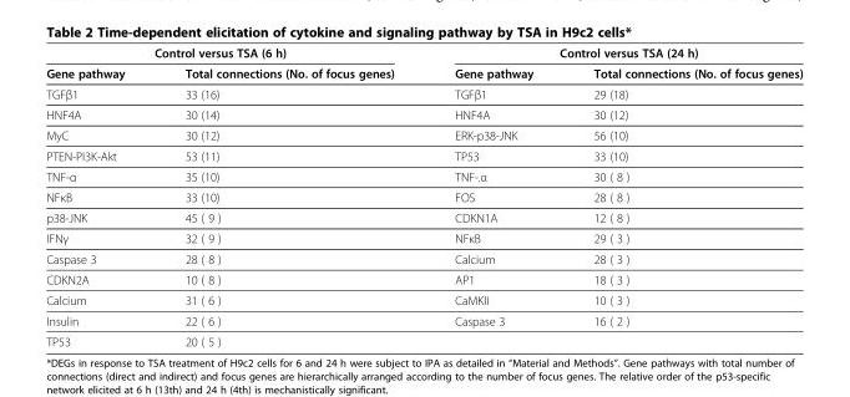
<table><thead><tr><td colspan="2">Control versus TSA (6 h)</td><td colspan="2">Control versus TSA (24 h)</td></tr><tr><td>Gene pathway</td><td>Total connections (No. of focus genes)</td><td>Gene pathway</td><td>Total connections (No. of focus genes)</td></tr></thead><tbody><tr><td>TGFβ1</td><td>33 (16)</td><td>TGFβ1</td><td>29 (18)</td></tr><tr><td>HNF4A</td><td>30 (14)</td><td>HNF4A</td><td>30 (12)</td></tr><tr><td>MyC</td><td>30 (12)</td><td>ERK-p38-JNK</td><td>56 (10)</td></tr><tr><td>PTEN-PI3K-Akt</td><td>53 (11)</td><td>TP53</td><td>33 (10)</td></tr><tr><td>TNF-α</td><td>35 (10)</td><td>TNF-.α</td><td>30 ( 8 )</td></tr><tr><td>NFκΒ</td><td>33 (10)</td><td>FOS</td><td>28 ( 8 )</td></tr><tr><td>p38-JNK</td><td>45 ( 9 )</td><td>CDKN1A</td><td>12 ( 8 )</td></tr><tr><td>IFNγ</td><td>32 ( 9 )</td><td>NFκΒ</td><td>29 ( 3 )</td></tr><tr><td>Caspase 3</td><td>28 ( 8 )</td><td>Calcium</td><td>28 ( 3 )</td></tr><tr><td>CDKN2A</td><td>10 ( 8 )</td><td>AP1</td><td>18 ( 3 )</td></tr><tr><td>Calcium</td><td>31 ( 6 )</td><td>CaMKII</td><td>10 ( 3 )</td></tr><tr><td>Insulin</td><td>22 ( 6 )</td><td>Caspase 3</td><td>16 ( 2 )</td></tr><tr><td>TP53</td><td>20 ( 5 )</td><td></td><td></td></tr></tbody></table>